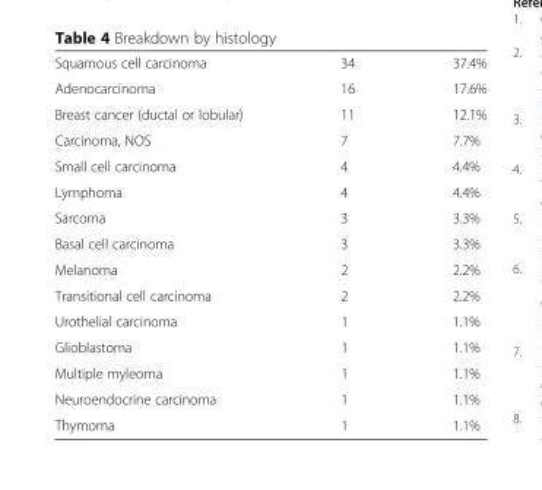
<table><tbody><tr><td>Squamous cell carcinoma</td><td>34</td><td>37.4%</td></tr><tr><td>Adenocarcinoma</td><td>16</td><td>17.6%</td></tr><tr><td>Breast cancer (ductal or lobular)</td><td>11</td><td>12.1%</td></tr><tr><td>Carcinoma, NOS</td><td>7</td><td>7.7%</td></tr><tr><td>Small cell carcinoma</td><td>4</td><td>4.4%</td></tr><tr><td>Lymphoma</td><td>4</td><td>4.4%</td></tr><tr><td>Sarcoma</td><td>3</td><td>3.3%</td></tr><tr><td>Basal cell carcinoma</td><td>3</td><td>3.3%</td></tr><tr><td>Melanoma</td><td>2</td><td>2.2%</td></tr><tr><td>Transitional cell carcinoma</td><td>2</td><td>2.2%</td></tr><tr><td>Urothelial carcinoma</td><td>1</td><td>1.1%</td></tr><tr><td>Glioblastoma</td><td>1</td><td>1.1%</td></tr><tr><td>Multiple myleoma</td><td>1</td><td>1.1%</td></tr><tr><td>Neuroendocrine carcinoma</td><td>1</td><td>1.1%</td></tr><tr><td>Thymoma</td><td>1</td><td>1.1%</td></tr></tbody></table>